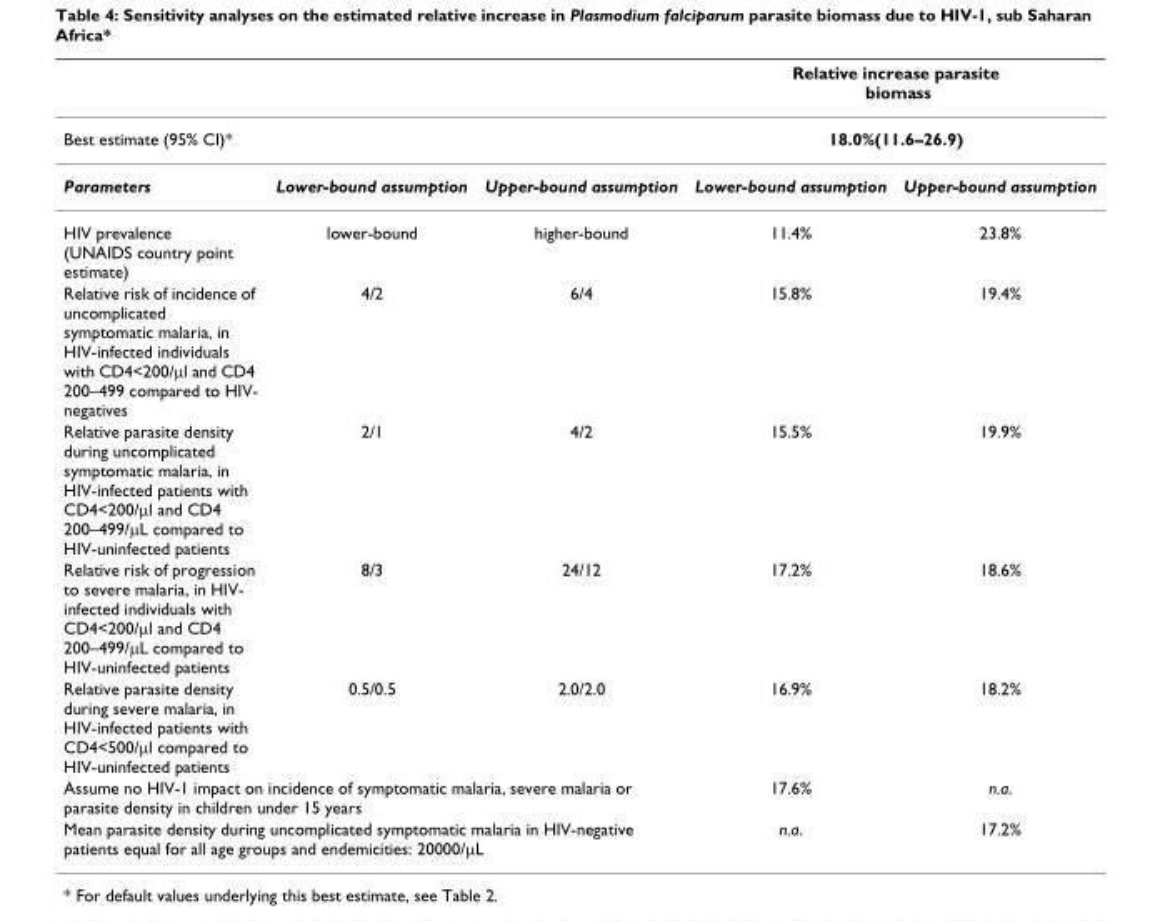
<table><thead><tr><td rowspan="3">Best estimate (95% CI)* Parameters</td><td rowspan="3">Lower-bound assumption</td><td rowspan="3">Upper-bound assumption</td><td rowspan="2" colspan="2">Relative increase parasite biomass 18.0%(11.6–26.9)</td></tr><tr></tr><tr><td>Lower-bound assumption</td><td>Upper-bound assumption</td></tr></thead><tbody><tr><td>HIV prevalence (UNAIDS country point estimate)</td><td>lower-bound</td><td>higher-bound</td><td>11.4%</td><td>23.8%</td></tr><tr><td>Relative risk of incidence of uncomplicated symptomatic malaria, in HIV-infected individuals with CD4&lt;200/μl and CD4 200–499 compared to HIV- negatives</td><td>4/2</td><td>6/4</td><td>15.8%</td><td>19.4%</td></tr><tr><td>Relative parasite density during uncomplicated symptomatic malaria, in HIV-infected patients with CD4&lt;200/μl and CD4 200–499/μL compared to HIV-uninfected patients</td><td>2/1</td><td>4/2</td><td>15.5%</td><td>19.9%</td></tr><tr><td>Relative risk of progression to severe malaria, in HIV- infected individuals with CD4&lt;200/μl and CD4 200–499/μL compared to HIV-uninfected patients</td><td>8/3</td><td>24/12</td><td>17.2%</td><td>18.6%</td></tr><tr><td>Relative parasite density during severe malaria, in HIV-infected patients with CD4&lt;500/μl compared to HIV-uninfected patients</td><td>0.5/0.5</td><td>2.0/2.0</td><td>16.9%</td><td>18.2%</td></tr><tr><td colspan="3">Assume no HIV-1 impact on incidence of symptomatic malaria, severe malaria or parasite density in children under 15 years</td><td>17.6%</td><td>n.a.</td></tr><tr><td colspan="3">Mean parasite density during uncomplicated symptomatic malaria in HIV-negative patients equal for all age groups and endemicities: 20000/μL</td><td>n.a.</td><td>17.2%</td></tr></tbody></table>